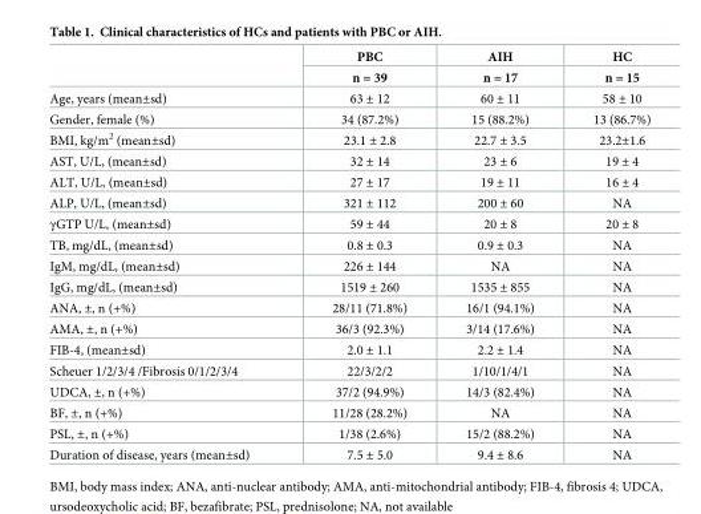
<table><thead><tr><td rowspan="2"></td><td rowspan="2">PBC n = 39</td><td rowspan="2">AIH n = 17</td><td rowspan="2">HC n = 15</td></tr><tr></tr></thead><tbody><tr><td>Age, years (mean±sd)</td><td>63 ± 12</td><td>60 ± 11</td><td>58 ± 10</td></tr><tr><td>Gender, female (%)</td><td>34 (87.2%)</td><td>15 (88.2%)</td><td>13 (86.7%)</td></tr><tr><td>BMI, kg/m<sup>2</sup> (mean±sd)</td><td>23.1 ± 2.8</td><td>22.7 ± 3.5</td><td>23.2±1.6</td></tr><tr><td>AST, U/L, (mean±sd)</td><td>32 ± 14</td><td>23 ± 6</td><td>19 ± 4</td></tr><tr><td>ALT, U/L, (mean±sd)</td><td>27 ± 17</td><td>19 ± 11</td><td>16 ± 4</td></tr><tr><td>ALP, U/L, (mean±sd)</td><td>321 ± 112</td><td>200 ± 60</td><td>NA</td></tr><tr><td>γGTP U/L, (mean±sd)</td><td>59 ± 44</td><td>20 ± 8</td><td>20 ± 8</td></tr><tr><td>TB, mg/dL, (mean±sd)</td><td>0.8 ± 0.3</td><td>0.9 ± 0.3</td><td>NA</td></tr><tr><td>IgM, mg/dL, (mean±sd)</td><td>226 ± 144</td><td>NA</td><td>NA</td></tr><tr><td>IgG, mg/dL, (mean±sd)</td><td>1519 ± 260</td><td>1535 ± 855</td><td>NA</td></tr><tr><td>ANA, ±, n (+%)</td><td>28/11 (71.8%)</td><td>16/1 (94.1%)</td><td>NA</td></tr><tr><td>AMA, ±, n (+%)</td><td>36/3 (92.3%)</td><td>3/14 (17.6%)</td><td>NA</td></tr><tr><td>FIB-4, (mean±sd)</td><td>2.0 ± 1.1</td><td>2.2 ± 1.4</td><td>NA</td></tr><tr><td>Scheuer 1/2/3/4 /Fibrosis 0/1/2/3/4</td><td>22/3/2/2</td><td>1/10/1/4/1</td><td>NA</td></tr><tr><td>UDCA, ±, n (+%)</td><td>37/2 (94.9%)</td><td>14/3 (82.4%)</td><td>NA</td></tr><tr><td>BF, ±, n (+%)</td><td>11/28 (28.2%)</td><td>NA</td><td>NA</td></tr><tr><td>PSL, ±, n (+%)</td><td>1/38 (2.6%)</td><td>15/2 (88.2%)</td><td>NA</td></tr><tr><td>Duration of disease, years (mean±sd)</td><td>7.5 ± 5.0</td><td>9.4 ± 8.6</td><td>NA</td></tr></tbody></table>